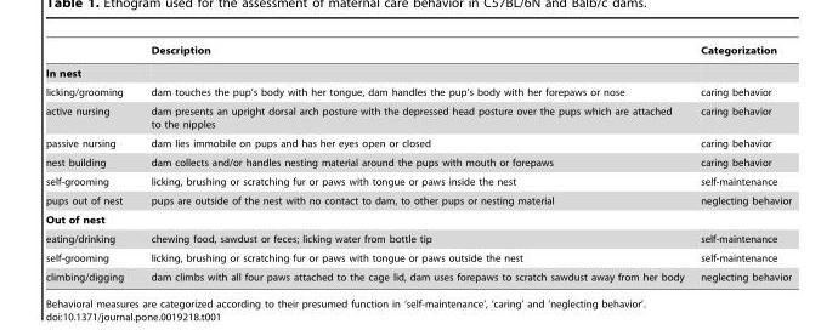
<table><thead><tr><td></td><td>Description</td><td>Categorization</td></tr></thead><tbody><tr><td colspan="3">In nest</td></tr><tr><td>licking/grooming</td><td>dam touches the pup’s body with her tongue, dam handles the pup’s body with her forepaws or nose</td><td>caring behavior</td></tr><tr><td>active nursing</td><td>dam presents an upright dorsal arch posture with the depressed head posture over the pups which are attached to the nipples</td><td>caring behavior</td></tr><tr><td>passive nursing</td><td>dam lies immobile on pups and has her eyes open or closed</td><td>caring behavior</td></tr><tr><td>nest building</td><td>dam collects and/or handles nesting material around the pups with mouth or forepaws</td><td>caring behavior</td></tr><tr><td>self-grooming</td><td>licking, brushing or scratching fur or paws with tongue or paws inside the nest</td><td>self-maintenance</td></tr><tr><td>pups out of nest</td><td>pups are outside of the nest with no contact to dam, to other pups or nesting material</td><td>neglecting behavior</td></tr><tr><td colspan="3">Out of nest</td></tr><tr><td>eating/drinking</td><td>chewing food, sawdust or feces; licking water from bottle tip</td><td>self-maintenance</td></tr><tr><td>self-grooming</td><td>licking, brushing or scratching fur or paws with tongue or paws outside the nest</td><td>self-maintenance</td></tr><tr><td>climbing/digging</td><td>dam climbs with all four paws attached to the cage lid, dam uses forepaws to scratch sawdust away from her body</td><td>neglecting behavior</td></tr></tbody></table>